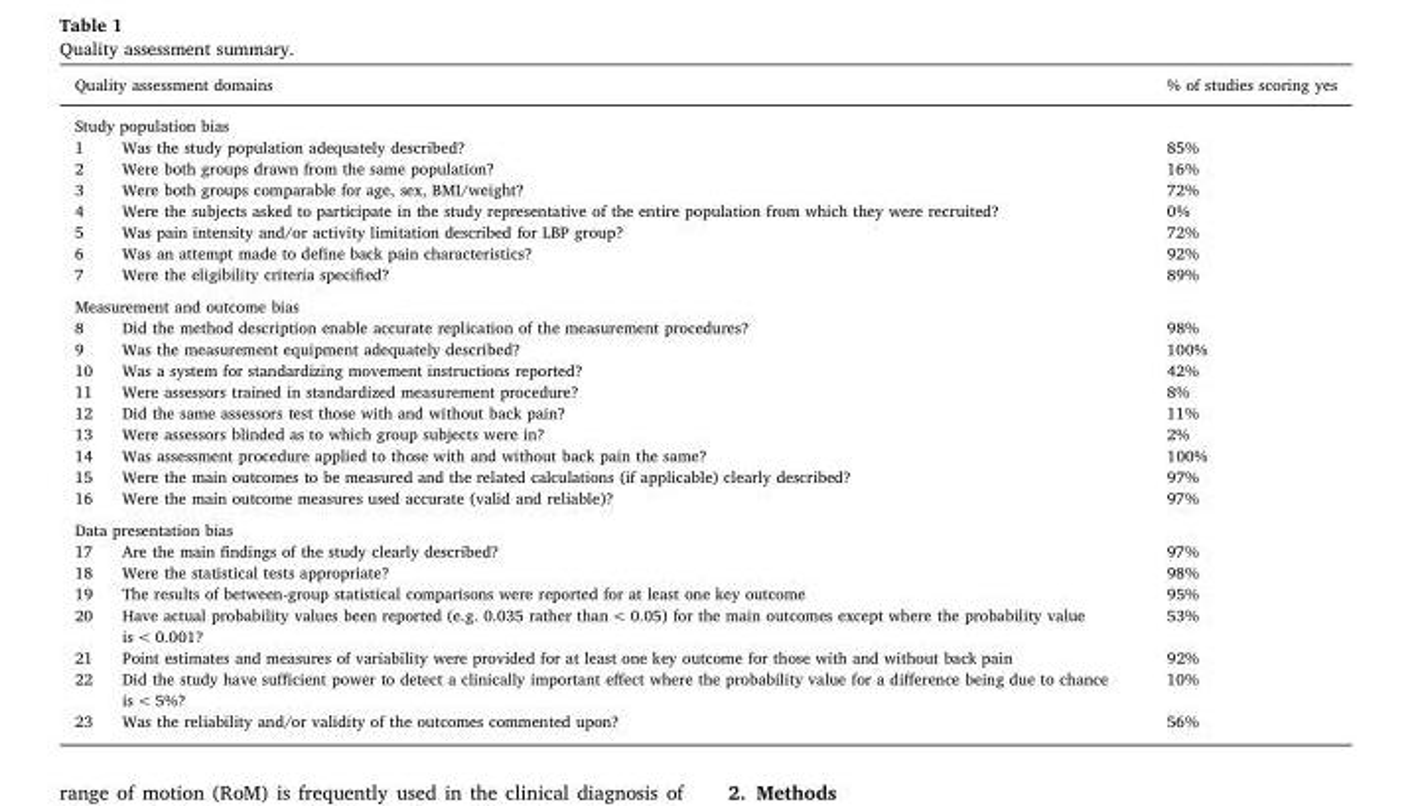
<table><thead><tr><td colspan="2">Quality assessment domains</td><td>% of studies scoring yes</td></tr><tr><td colspan="3">Study population bias</td></tr><tr><td>1</td><td>Was the study population adequately described?</td><td>85%</td></tr></thead><tbody><tr><td>2</td><td>Were both groups drawn from the same population?</td><td>16%</td></tr><tr><td>3</td><td>Were both groups comparable for age, sex, BMI/weight?</td><td>72%</td></tr><tr><td>4</td><td>Were the subjects asked to participate in the study representative of the entire population from which they were recruited?</td><td>0%</td></tr><tr><td>5</td><td>Was pain intensity and/or activity limitation described for LBP group?</td><td>72%</td></tr><tr><td>6</td><td>Was an attempt made to define back pain characteristics?</td><td>92%</td></tr><tr><td>7</td><td>Were the eligibility criteria specified?</td><td>89%</td></tr><tr><td colspan="3">Measurement and outcome bias</td></tr><tr><td>8</td><td>Did the method description enable accurate replication of the measurement procedures?</td><td>98%</td></tr><tr><td>9</td><td>Was the measurement equipment adequately described?</td><td>100%</td></tr><tr><td>10</td><td>Was a system for standardizing movement instructions reported?</td><td>42%</td></tr><tr><td>11</td><td>Were assessors trained in standardized measurement procedure?</td><td>8%</td></tr><tr><td>12</td><td>Did the same assessors test those with and without back pain?</td><td>11%</td></tr><tr><td>13</td><td>Were assessors blinded as to which group subjects were in?</td><td>2%</td></tr><tr><td>14</td><td>Was assessment procedure applied to those with and without back pain the same?</td><td>100%</td></tr><tr><td>15</td><td>Were the main outcomes to be measured and the related calculations (if applicable) clearly described?</td><td>97%</td></tr><tr><td>16</td><td>Were the main outcome measures used accurate (valid and reliable)?</td><td>97%</td></tr><tr><td colspan="3">Data presentation bias</td></tr><tr><td>17</td><td>Are the main findings of the study clearly described?</td><td>97%</td></tr><tr><td>18</td><td>Were the statistical tests appropriate?</td><td>98%</td></tr><tr><td>19</td><td>The results of between-group statistical comparisons were reported for at least one key outcome</td><td>95%</td></tr><tr><td>20</td><td>Have actual probability values been reported (e.g. 0.035 rather than &lt; 0.05) for the main outcomes except where the probability value is &lt; 0.001?</td><td>53%</td></tr><tr><td>21</td><td>Point estimates and measures of variability were provided for at least one key outcome for those with and without back pain</td><td>92%</td></tr><tr><td>22</td><td>Did the study have sufficient power to detect a clinically important effect where the probability value for a difference being due to chance is &lt; 5%?</td><td>10%</td></tr><tr><td>23</td><td>Was the reliability and/or validity of the outcomes commented upon?</td><td>56%</td></tr></tbody></table>